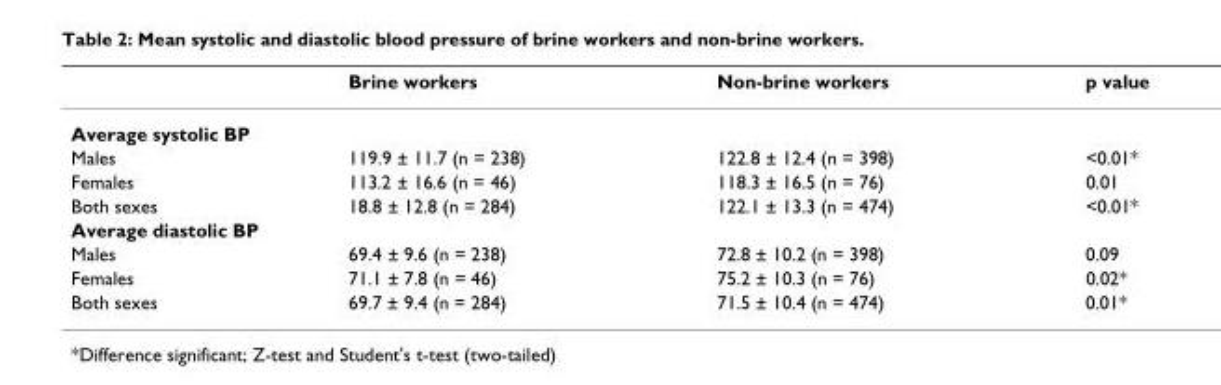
<table><thead><tr><td></td><td>Brine workers</td><td>Non-brine workers</td><td>p value</td></tr></thead><tbody><tr><td colspan="4">Average systolic BP</td></tr><tr><td>Males</td><td>119.9 ± 11.7 (n = 238)</td><td>122.8 ± 12.4 (n = 398)</td><td>&lt;0.01*</td></tr><tr><td>Females</td><td>113.2 ± 16.6 (n = 46)</td><td>118.3 ± 16.5 (n = 76)</td><td>0.01</td></tr><tr><td>Both sexes</td><td>18.8 ± 12.8 (n = 284)</td><td>122.1 ± 13.3 (n = 474)</td><td>&lt;0.01*</td></tr><tr><td colspan="4">Average diastolic BP</td></tr><tr><td>Males</td><td>69.4 ± 9.6 (n = 238)</td><td>72.8 ± 10.2 (n = 398)</td><td>0.09</td></tr><tr><td>Females</td><td>71.1 ± 7.8 (n = 46)</td><td>75.2 ± 10.3 (n = 76)</td><td>0.02*</td></tr><tr><td>Both sexes</td><td>69.7 ± 9.4 (n = 284)</td><td>71.5 ± 10.4 (n = 474)</td><td>0.01*</td></tr></tbody></table>